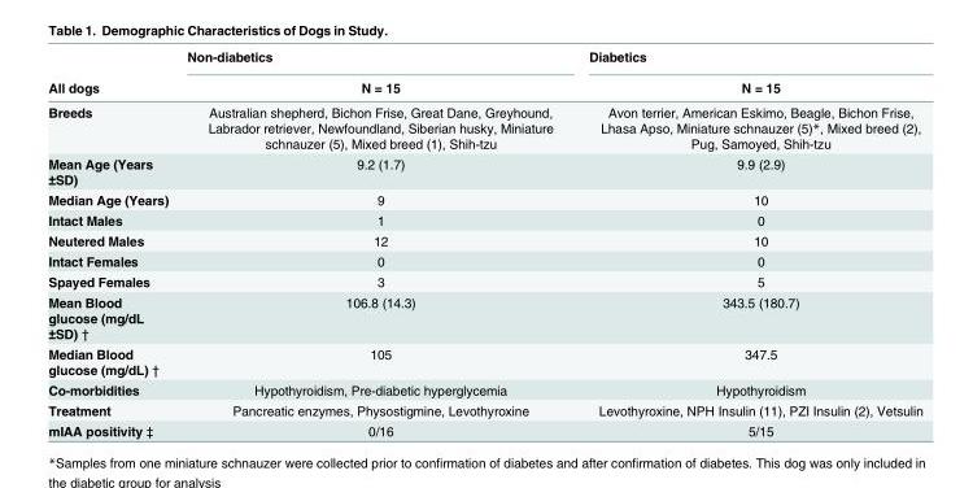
<table><thead><tr><td rowspan="2">All dogs</td><td rowspan="2">Non-diabetics N = 15</td><td rowspan="2">Diabetics N = 15</td></tr><tr></tr></thead><tbody><tr><td>Breeds</td><td>Australian shepherd, Bichon Frise, Great Dane, Greyhound, Labrador retriever, Newfoundland, Siberian husky, Miniature schnauzer (5), Mixed breed (1), Shih-tzu</td><td>Avon terrier, American Eskimo, Beagle, Bichon Frise, Lhasa Apso, Miniature schnauzer (5)*, Mixed breed (2), Pug, Samoyed, Shih-tzu</td></tr><tr><td>Mean Age (Years ±SD)</td><td>9.2 (1.7)</td><td>9.9 (2.9)</td></tr><tr><td>Median Age (Years)</td><td>9</td><td>10</td></tr><tr><td>Intact Males</td><td>1</td><td>0</td></tr><tr><td>Neutered Males</td><td>12</td><td>10</td></tr><tr><td>Intact Females</td><td>0</td><td>0</td></tr><tr><td>Spayed Females</td><td>3</td><td>5</td></tr><tr><td>Mean Blood glucose (mg/dL ±SD) †</td><td>106.8 (14.3)</td><td>343.5 (180.7)</td></tr><tr><td>Median Blood glucose (mg/dL) †</td><td>105</td><td>347.5</td></tr><tr><td>Co-morbidities</td><td>Hypothyroidism, Pre-diabetic hyperglycemia</td><td>Hypothyroidism</td></tr><tr><td>Treatment</td><td>Pancreatic enzymes, Physostigmine, Levothyroxine</td><td>Levothyroxine, NPH Insulin (11), PZI Insulin (2), Vetsulin</td></tr><tr><td>mIAA positivity ‡</td><td>0/16</td><td>5/15</td></tr></tbody></table>